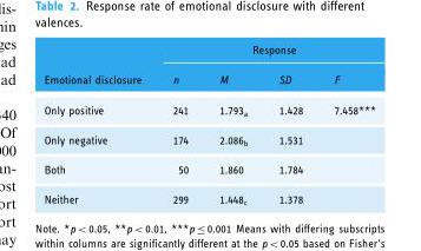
<table><thead><tr><td rowspan="2">Emotional disclosure</td><td colspan="4">Response</td></tr><tr><td>n</td><td>M</td><td>SD</td><td>F</td></tr></thead><tbody><tr><td>Only positive</td><td>241</td><td>1.793<sub>a</sub></td><td>1.428</td><td>7.458***</td></tr><tr><td>Only negative</td><td>174</td><td>2.086<sub>b</sub></td><td>1.531</td><td></td></tr><tr><td>Both</td><td>50</td><td>1.860</td><td>1.784</td><td></td></tr><tr><td>Neither</td><td>299</td><td>1.448<sub>c</sub></td><td>1.378</td><td></td></tr></tbody></table>